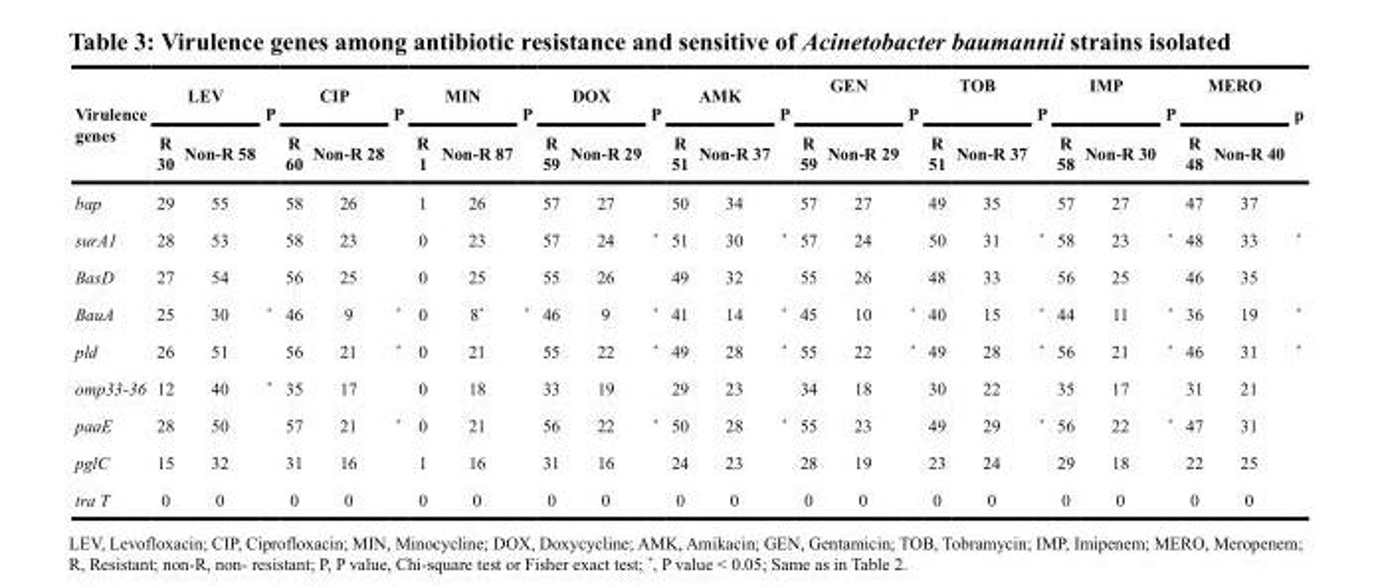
<table><thead><tr><td rowspan="2">Virulence genes</td><td colspan="2">LEV</td><td rowspan="2">P</td><td colspan="2">CIP</td><td rowspan="2">P</td><td colspan="2">MIN</td><td rowspan="2">P</td><td colspan="2">DOX</td><td rowspan="2">P</td><td colspan="2">AMK</td><td rowspan="2">P</td><td colspan="2">GEN</td><td rowspan="2">P</td><td colspan="2">TOB</td><td rowspan="2">P</td><td colspan="2">IMP</td><td rowspan="2">P</td><td colspan="2">MERO</td><td rowspan="2">p</td></tr><tr><td>R 30</td><td>Non-R 58</td><td>R 60</td><td>Non-R 28</td><td>R 1</td><td>Non-R 87</td><td>R 59</td><td>Non-R 29</td><td>R 51</td><td>Non-R 37</td><td>R 59</td><td>Non-R 29</td><td>R 51</td><td>Non-R 37</td><td>R 58</td><td>Non-R 30</td><td>R 48</td><td>Non-R 40</td></tr></thead><tbody><tr><td>bap</td><td>29</td><td>55</td><td></td><td>58</td><td>26</td><td></td><td>1</td><td>26</td><td></td><td>57</td><td>27</td><td></td><td>50</td><td>34</td><td></td><td>57</td><td>27</td><td></td><td>49</td><td>35</td><td></td><td>57</td><td>27</td><td></td><td>47</td><td>37</td><td></td></tr><tr><td>surA1</td><td>28</td><td>53</td><td></td><td>58</td><td>23</td><td></td><td>0</td><td>23</td><td></td><td>57</td><td>24</td><td>*</td><td>51</td><td>30</td><td>*</td><td>57</td><td>24</td><td></td><td>50</td><td>31</td><td>*</td><td>58</td><td>23</td><td>*</td><td>48</td><td>33</td><td>*</td></tr><tr><td>BasD</td><td>27</td><td>54</td><td></td><td>56</td><td>25</td><td></td><td>0</td><td>25</td><td></td><td>55</td><td>26</td><td></td><td>49</td><td>32</td><td></td><td>55</td><td>26</td><td></td><td>48</td><td>33</td><td></td><td>56</td><td>25</td><td></td><td>46</td><td>35</td><td></td></tr><tr><td>BauA</td><td>25</td><td>30</td><td>*</td><td>46</td><td>9</td><td>*</td><td>0</td><td>8*</td><td>*</td><td>46</td><td>9</td><td>*</td><td>41</td><td>14</td><td>*</td><td>45</td><td>10</td><td>*</td><td>40</td><td>15</td><td>*</td><td>44</td><td>11</td><td>*</td><td>36</td><td>19</td><td>*</td></tr><tr><td>pld</td><td>26</td><td>51</td><td></td><td>56</td><td>21</td><td>*</td><td>0</td><td>21</td><td></td><td>55</td><td>22</td><td>*</td><td>49</td><td>28</td><td>*</td><td>55</td><td>22</td><td>*</td><td>49</td><td>28</td><td>*</td><td>56</td><td>21</td><td>*</td><td>46</td><td>31</td><td>*</td></tr><tr><td>omp33-36</td><td>12</td><td>40</td><td>*</td><td>35</td><td>17</td><td></td><td>0</td><td>18</td><td></td><td>33</td><td>19</td><td></td><td>29</td><td>23</td><td></td><td>34</td><td>18</td><td></td><td>30</td><td>22</td><td></td><td>35</td><td>17</td><td></td><td>31</td><td>21</td><td></td></tr><tr><td>paaE</td><td>28</td><td>50</td><td></td><td>57</td><td>21</td><td>*</td><td>0</td><td>21</td><td></td><td>56</td><td>22</td><td>*</td><td>50</td><td>28</td><td>*</td><td>55</td><td>23</td><td></td><td>49</td><td>29</td><td>*</td><td>56</td><td>22</td><td>*</td><td>47</td><td>31</td><td></td></tr><tr><td>pglC</td><td>15</td><td>32</td><td></td><td>31</td><td>16</td><td></td><td>1</td><td>16</td><td></td><td>31</td><td>16</td><td></td><td>24</td><td>23</td><td></td><td>28</td><td>19</td><td></td><td>23</td><td>24</td><td></td><td>29</td><td>18</td><td></td><td>22</td><td>25</td><td></td></tr><tr><td>tra T</td><td>0</td><td>0</td><td></td><td>0</td><td>0</td><td></td><td>0</td><td>0</td><td></td><td>0</td><td>0</td><td></td><td>0</td><td>0</td><td></td><td>0</td><td>0</td><td></td><td>0</td><td>0</td><td></td><td>0</td><td>0</td><td></td><td>0</td><td>0</td><td></td></tr></tbody></table>